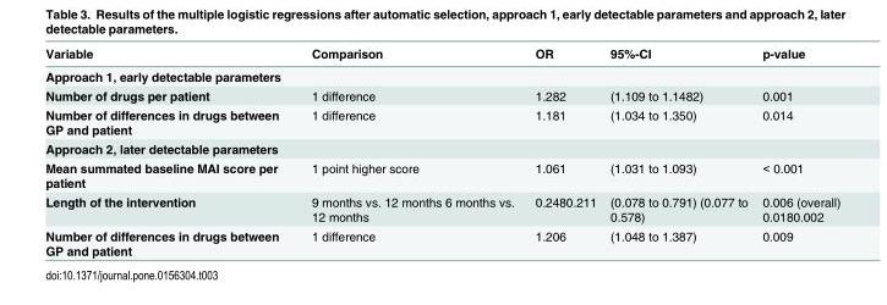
<table><thead><tr><td>Variable</td><td>Comparison</td><td>OR</td><td>95%-CI</td><td>p-value</td></tr></thead><tbody><tr><td colspan="5">Approach 1, early detectable parameters</td></tr><tr><td>Number of drugs per patient</td><td>1 difference</td><td>1.282</td><td>(1.109 to 1.1482)</td><td>0.001</td></tr><tr><td>Number of differences in drugs between GP and patient</td><td>1 difference</td><td>1.181</td><td>(1.034 to 1.350)</td><td>0.014</td></tr><tr><td colspan="5">Approach 2, later detectable parameters</td></tr><tr><td>Mean summated baseline MAI score per patient</td><td>1 point higher score</td><td>1.061</td><td>(1.031 to 1.093)</td><td>&lt; 0.001</td></tr><tr><td>Length of the intervention</td><td>9 months vs. 12 months 6 months vs. 12 months</td><td>0.2480.211</td><td>(0.078 to 0.791) (0.077 to 0.578)</td><td>0.006 (overall) 0.0180.002</td></tr><tr><td>Number of differences in drugs between GP and patient</td><td>1 difference</td><td>1.206</td><td>(1.048 to 1.387)</td><td>0.009</td></tr></tbody></table>